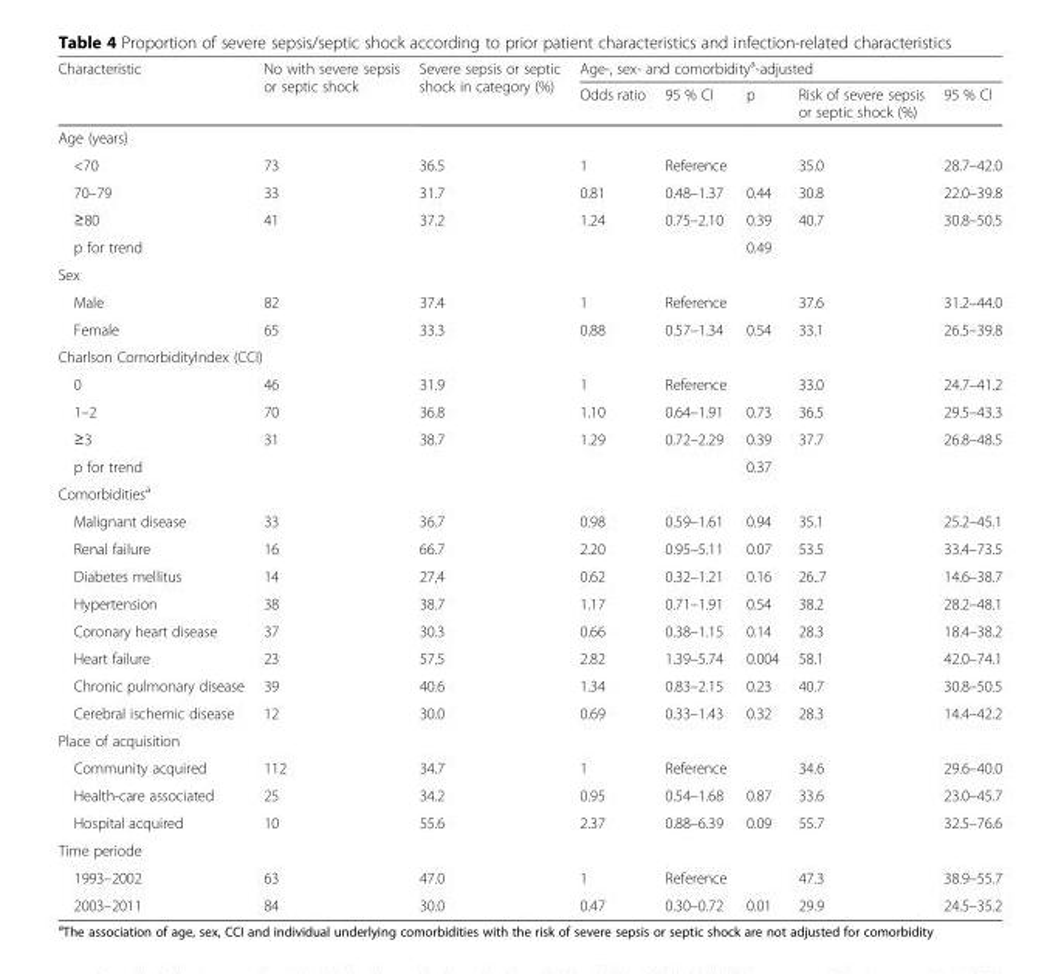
<table><thead><tr><td rowspan="2">Characteristic</td><td rowspan="2">No with severe sepsis or septic shock</td><td rowspan="2">Severe sepsis or septic shock in category (%)</td><td colspan="5">Age-, sex- and comorbidity<sup>a</sup>-adjusted</td></tr><tr><td>Odds ratio</td><td>95 % CI</td><td>p</td><td>Risk of severe sepsis or septic shock (%)</td><td>95 % CI</td></tr></thead><tbody><tr><td colspan="8">Age (years)</td></tr><tr><td>&lt;70</td><td>73</td><td>36.5</td><td>1</td><td>Reference</td><td></td><td>35.0</td><td>28.7–42.0</td></tr><tr><td>70–79</td><td>33</td><td>31.7</td><td>0.81</td><td>0.48–1.37</td><td>0.44</td><td>30.8</td><td>22.0–39.8</td></tr><tr><td>≥80</td><td>41</td><td>37.2</td><td>1.24</td><td>0.75–2.10</td><td>0.39</td><td>40.7</td><td>30.8–50.5</td></tr><tr><td>p for trend</td><td></td><td></td><td></td><td></td><td>0.49</td><td></td><td></td></tr><tr><td colspan="8">Sex</td></tr><tr><td>Male</td><td>82</td><td>37.4</td><td>1</td><td>Reference</td><td></td><td>37.6</td><td>31.2–44.0</td></tr><tr><td>Female</td><td>65</td><td>33.3</td><td>0.88</td><td>0.57–1.34</td><td>0.54</td><td>33.1</td><td>26.5–39.8</td></tr><tr><td colspan="8">Charlson ComorbidityIndex (CCI)</td></tr><tr><td>0</td><td>46</td><td>31.9</td><td>1</td><td>Reference</td><td></td><td>33.0</td><td>24.7–41.2</td></tr><tr><td>1–2</td><td>70</td><td>36.8</td><td>1.10</td><td>0.64–1.91</td><td>0.73</td><td>36.5</td><td>29.5–43.3</td></tr><tr><td>≥3</td><td>31</td><td>38.7</td><td>1.29</td><td>0.72–2.29</td><td>0.39</td><td>37.7</td><td>26.8–48.5</td></tr><tr><td>p for trend</td><td></td><td></td><td></td><td></td><td>0.37</td><td></td><td></td></tr><tr><td colspan="8">Comorbidities<sup>a</sup></td></tr><tr><td>Malignant disease</td><td>33</td><td>36.7</td><td>0.98</td><td>0.59–1.61</td><td>0.94</td><td>35.1</td><td>25.2–45.1</td></tr><tr><td>Renal failure</td><td>16</td><td>66.7</td><td>2.20</td><td>0.95–5.11</td><td>0.07</td><td>53.5</td><td>33.4–73.5</td></tr><tr><td>Diabetes mellitus</td><td>14</td><td>27,4</td><td>0.62</td><td>0.32–1.21</td><td>0.16</td><td>26..7</td><td>14.6–38.7</td></tr><tr><td>Hypertension</td><td>38</td><td>38.7</td><td>1.17</td><td>0.71–1.91</td><td>0.54</td><td>38.2</td><td>28.2–48.1</td></tr><tr><td>Coronary heart disease</td><td>37</td><td>30.3</td><td>0.66</td><td>0.38–1.15</td><td>0.14</td><td>28.3</td><td>18.4–38.2</td></tr><tr><td>Heart failure</td><td>23</td><td>57.5</td><td>2.82</td><td>1.39–5.74</td><td>0.004</td><td>58.1</td><td>42.0–74.1</td></tr><tr><td>Chronic pulmonary disease</td><td>39</td><td>40.6</td><td>1.34</td><td>0.83–2.15</td><td>0.23</td><td>40.7</td><td>30.8–50.5</td></tr><tr><td>Cerebral ischemic disease</td><td>12</td><td>30.0</td><td>0.69</td><td>0.33–1.43</td><td>0.32</td><td>28.3</td><td>14.4–42.2</td></tr><tr><td colspan="8">Place of acquisition</td></tr><tr><td>Community acquired</td><td>112</td><td>34.7</td><td>1</td><td>Reference</td><td></td><td>34.6</td><td>29.6–40.0</td></tr><tr><td>Health-care associated</td><td>25</td><td>34.2</td><td>0.95</td><td>0.54–1.68</td><td>0.87</td><td>33.6</td><td>23.0–45.7</td></tr><tr><td>Hospital acquired</td><td>10</td><td>55.6</td><td>2.37</td><td>0.88–6.39</td><td>0.09</td><td>55.7</td><td>32.5–76.6</td></tr><tr><td colspan="8">Time periode</td></tr><tr><td>1993–2002</td><td>63</td><td>47.0</td><td>1</td><td>Reference</td><td></td><td>47.3</td><td>38.9–55.7</td></tr><tr><td>2003–2011</td><td>84</td><td>30.0</td><td>0.47</td><td>0.30–0.72</td><td>0.01</td><td>29.9</td><td>24.5–35.2</td></tr></tbody></table>